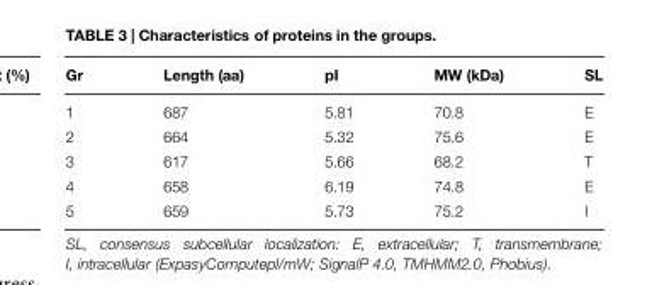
<table><thead><tr><td>Gr</td><td>Length (aa)</td><td>pI</td><td>MW (kDa)</td><td>SL</td></tr></thead><tbody><tr><td>1</td><td>687</td><td>5.81</td><td>70.8</td><td>E</td></tr><tr><td>2</td><td>664</td><td>5.32</td><td>75.6</td><td>E</td></tr><tr><td>3</td><td>617</td><td>5.66</td><td>68.2</td><td>T</td></tr><tr><td>4</td><td>658</td><td>6.19</td><td>74.8</td><td>E</td></tr><tr><td>5</td><td>659</td><td>5.73</td><td>75.2</td><td>I</td></tr></tbody></table>